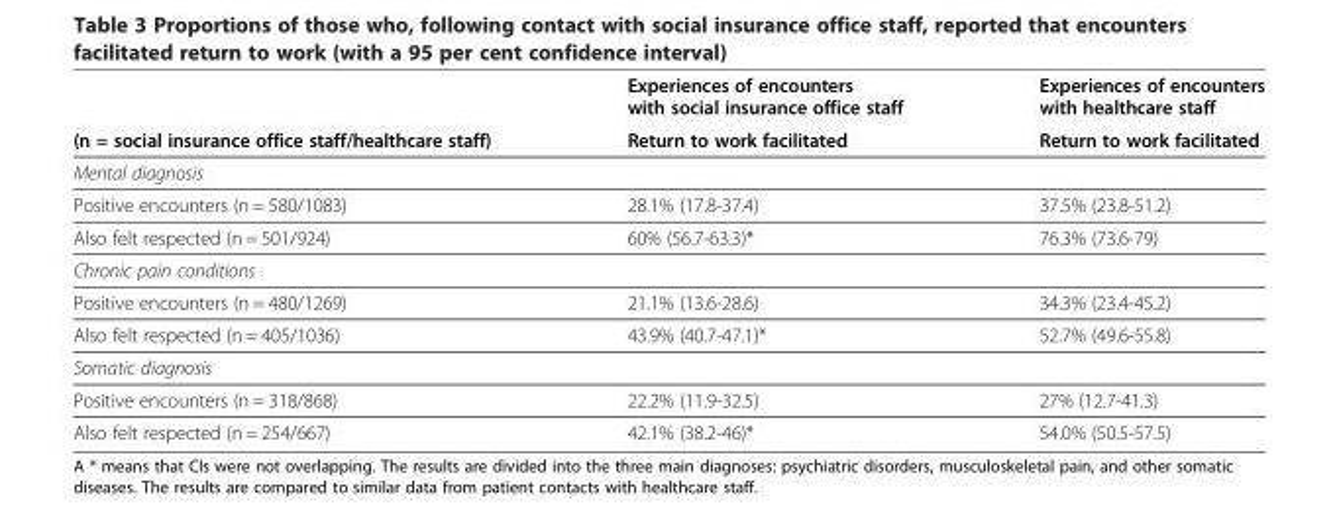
<table><thead><tr><td rowspan="2">(n = social insurance office staff/healthcare staff)</td><td rowspan="2">Experiences of encounters with social insurance office staff Return to work facilitated</td><td rowspan="2">Experiences of encounters with healthcare staff Return to work facilitated</td></tr><tr></tr></thead><tbody><tr><td colspan="3">Mental diagnosis</td></tr><tr><td>Positive encounters (n = 580/1083)</td><td>28.1% (17.8-37.4)</td><td>37.5% (23.8-51.2)</td></tr><tr><td>Also felt respected (n = 501/924)</td><td>60% (56.7-63.3)*</td><td>76.3% (73.6-79)</td></tr><tr><td colspan="3">Chronic pain conditions</td></tr><tr><td>Positive encounters (n = 480/1269)</td><td>21.1% (13.6-28.6)</td><td>34.3% (23.4-45.2)</td></tr><tr><td>Also felt respected (n = 405/1036)</td><td>43.9% (40.7-47.1)*</td><td>52.7% (49.6-55.8)</td></tr><tr><td colspan="3">Somatic diagnosis</td></tr><tr><td>Positive encounters (n = 318/868)</td><td>22.2% (11.9-32.5)</td><td>27% (12.7-41.3)</td></tr><tr><td>Also felt respected (n = 254/667)</td><td>42.1% (38.2-46)*</td><td>54.0% (50.5-57.5)</td></tr></tbody></table>